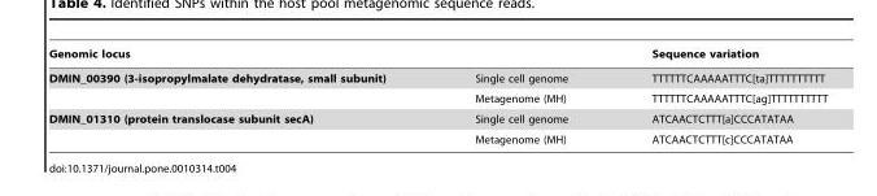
<table><thead><tr><td>Genomic locus</td><td></td><td>Sequence variation</td></tr></thead><tbody><tr><td rowspan="2">DMIN_00390 (3-isopropylmalate dehydratase, small subunit)</td><td>Single cell genome</td><td>TTTTTTCAAAAATTTC[ta]TTTTTTTTTT</td></tr><tr><td>Metagenome (MH)</td><td>TTTTTTCAAAAATTTC[ag]TTTTTTTTTT</td></tr><tr><td rowspan="2">DMIN_01310 (protein translocase subunit secA)</td><td>Single cell genome</td><td>ATCAACTCTTT[a]CCCATATAA</td></tr><tr><td>Metagenome (MH)</td><td>ATCAACTCTTT[c]CCCATATAA</td></tr></tbody></table>